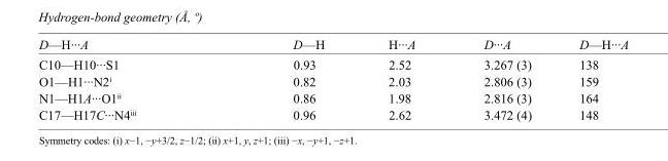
<table><tbody><tr><td>D—H···A</td><td>D—H</td><td>H···A</td><td>D···A</td><td>D—H···A</td></tr><tr><td>C10—H10···S1</td><td>0.93</td><td>2.52</td><td>3.267 (3)</td><td>138</td></tr><tr><td>O1—H1···N2<sup>i</sup></td><td>0.82</td><td>2.03</td><td>2.806 (3)</td><td>159</td></tr><tr><td>N1—H1A···O1<sup>ii</sup></td><td>0.86</td><td>1.98</td><td>2.816 (3)</td><td>164</td></tr><tr><td>C17—H17C···N4<sup>iii</sup></td><td>0.96</td><td>2.62</td><td>3.472 (4)</td><td>148</td></tr></tbody></table>